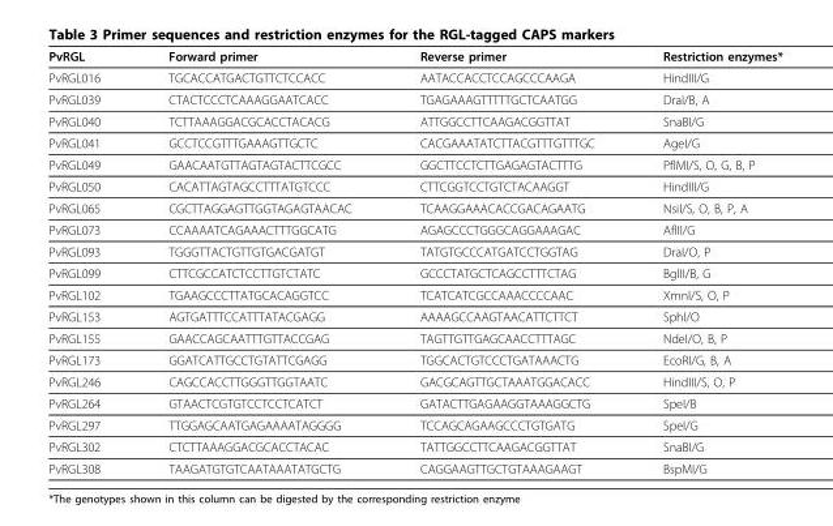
<table><thead><tr><td>PvRGL</td><td>Forward primer</td><td>Reverse primer</td><td>Restriction enzymes*</td></tr></thead><tbody><tr><td>PvRGL016</td><td>TGCACCATGACTGTTCTCCACC</td><td>AATACCACCTCCAGCCCAAGA</td><td>HindIII/G</td></tr><tr><td>PvRGL039</td><td>CTACTCCCTCAAAGGAATCACC</td><td>TGAGAAAGTTTTTGCTCAATGG</td><td>DraI/B, A</td></tr><tr><td>PvRGL040</td><td>TCTTAAAGGACGCACCTACACG</td><td>ATTGGCCTTCAAGACGGTTAT</td><td>SnaBI/G</td></tr><tr><td>PvRGL041</td><td>GCCTCCGTTTGAAAGTTGCTC</td><td>CACGAAATATCTTACGTTTGTTTGC</td><td>AgeI/G</td></tr><tr><td>PvRGL049</td><td>GAACAATGTTAGTAGTACTTCGCC</td><td>GGCTTCCTCTTGAGAGTACTTTG</td><td>PflMI/S, O, G, B, P</td></tr><tr><td>PvRGL050</td><td>CACATTAGTAGCCTTTATGTCCC</td><td>CTTCGGTCCTGTCTACAAGGT</td><td>HindIII/G</td></tr><tr><td>PvRGL065</td><td>CGCTTAGGAGTTGGTAGAGTAACAC</td><td>TCAAGGAAACACCGACAGAATG</td><td>NsiI/S, O, B, P, A</td></tr><tr><td>PvRGL073</td><td>CCAAAATCAGAAACTTTGGCATG</td><td>AGAGCCCTGGGCAGGAAAGAC</td><td>AflII/G</td></tr><tr><td>PvRGL093</td><td>TGGGTTACTGTTGTGACGATGT</td><td>TATGTGCCCATGATCCTGGTAG</td><td>DraI/O, P</td></tr><tr><td>PvRGL099</td><td>CTTCGCCATCTCCTTGTCTATC</td><td>GCCCTATGCTCAGCCTTTCTAG</td><td>BglII/B, G</td></tr><tr><td>PvRGL102</td><td>TGAAGCCCTTATGCACAGGTCC</td><td>TCATCATCGCCAAACCCCAAC</td><td>XmnI/S, O, P</td></tr><tr><td>PvRGL153</td><td>AGTGATTTCCATTTATACGAGG</td><td>AAAAGCCAAGTAACATTCTTCT</td><td>SphI/O</td></tr><tr><td>PvRGL155</td><td>GAACCAGCAATTTGTTACCGAG</td><td>TAGTTGTTGAGCAACCTTTAGC</td><td>NdeI/O, B, P</td></tr><tr><td>PvRGL173</td><td>GGATCATTGCCTGTATTCGAGG</td><td>TGGCACTGTCCCTGATAAACTG</td><td>EcoRI/G, B, A</td></tr><tr><td>PvRGL246</td><td>CAGCCACCTTGGGTTGGTAATC</td><td>GACGCAGTTGCTAAATGGACACC</td><td>HindIII/S, O, P</td></tr><tr><td>PvRGL264</td><td>GTAACTCGTGTCCTCCTCATCT</td><td>GATACTTGAGAAGGTAAAGGCTG</td><td>SpeI/B</td></tr><tr><td>PvRGL297</td><td>TTGGAGCAATGAGAAAATAGGGG</td><td>TCCAGCAGAAGCCCTGTGATG</td><td>SpeI/G</td></tr><tr><td>PvRGL302</td><td>CTCTTAAAGGACGCACCTACAC</td><td>TATTGGCCTTCAAGACGGTTAT</td><td>SnaBI/G</td></tr><tr><td>PvRGL308</td><td>TAAGATGTGTCAATAAATATGCTG</td><td>CAGGAAGTTGCTGTAAAGAAGT</td><td>BspMI/G</td></tr></tbody></table>